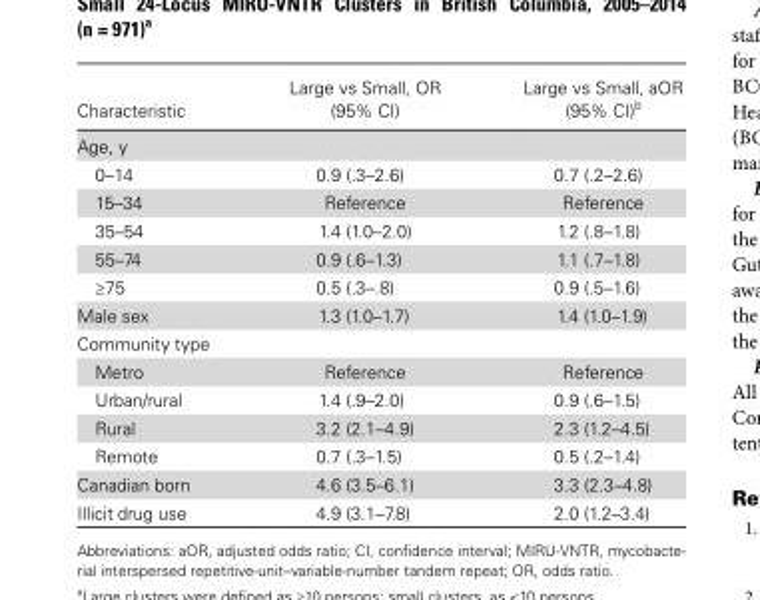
<table><thead><tr><td>Characteristic</td><td>Large vs Small, OR (95% CI)</td><td>Large vs Small, aOR (95% CI)<sup>b</sup></td></tr></thead><tbody><tr><td colspan="3">Age, y</td></tr><tr><td>0–14</td><td>0.9 (.3–2.6)</td><td>0.7 (.2–2.6)</td></tr><tr><td>15–34</td><td>Reference</td><td>Reference</td></tr><tr><td>35–54</td><td>1.4 (1.0–2.0)</td><td>1.2 (.8–1.8)</td></tr><tr><td>55–74</td><td>0.9 (.6–1.3)</td><td>1.1 (.7–1.8)</td></tr><tr><td>≥75</td><td>0.5 (.3–.8)</td><td>0.9 (.5–1.6)</td></tr><tr><td>Male sex</td><td>1.3 (1.0–1.7)</td><td>1.4 (1.0–1.9)</td></tr><tr><td colspan="3">Community type</td></tr><tr><td>Metro</td><td>Reference</td><td>Reference</td></tr><tr><td>Urban/rural</td><td>1.4 (.9–2.0)</td><td>0.9 (.6–1.5)</td></tr><tr><td>Rural</td><td>3.2 (2.1–4.9)</td><td>2.3 (1.2–4.5)</td></tr><tr><td>Remote</td><td>0.7 (.3–1.5)</td><td>0.5 (.2–1.4)</td></tr><tr><td>Canadian born</td><td>4.6 (3.5–6.1)</td><td>3.3 (2.3–4.8)</td></tr><tr><td>Illicit drug use</td><td>4.9 (3.1–7.8)</td><td>2.0 (1.2–3.4)</td></tr></tbody></table>